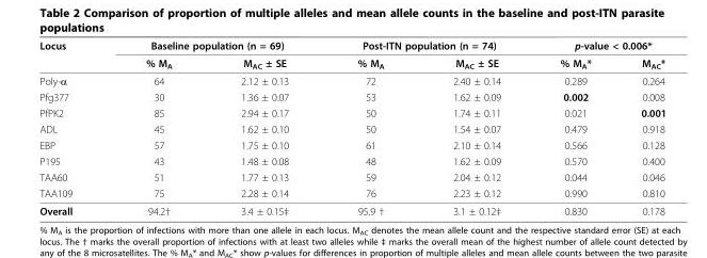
<table><thead><tr><td rowspan="2">Locus</td><td colspan="2">Baseline population (n = 69)</td><td colspan="2">Post-ITN population (n = 74)</td><td colspan="2">p-value &lt; 0.006*</td></tr><tr><td>% M<sub>A</sub></td><td>M<sub>AC</sub> ± SE</td><td>% M<sub>A</sub></td><td>M<sub>AC</sub> ± SE</td><td>% M<sub>A</sub>*</td><td>M<sub>AC</sub>*</td></tr></thead><tbody><tr><td>Poly-α</td><td>64</td><td>2.12 ± 0.13</td><td>72</td><td>2.40 ± 0.14</td><td>0.289</td><td>0.264</td></tr><tr><td>Pfg377</td><td>30</td><td>1.36 ± 0.07</td><td>53</td><td>1.62 ± 0.09</td><td>0.002</td><td>0.008</td></tr><tr><td>PfPK2</td><td>85</td><td>2.94 ± 0.17</td><td>50</td><td>1.74 ± 0.11</td><td>0.021</td><td>0.001</td></tr><tr><td>ADL</td><td>45</td><td>1.62 ± 0.10</td><td>50</td><td>1.54 ± 0.07</td><td>0.479</td><td>0.918</td></tr><tr><td>EBP</td><td>57</td><td>1.75 ± 0.10</td><td>61</td><td>2.10 ± 0.14</td><td>0.566</td><td>0.128</td></tr><tr><td>P195</td><td>43</td><td>1.48 ± 0.08</td><td>48</td><td>1.62 ± 0.09</td><td>0.570</td><td>0.400</td></tr><tr><td>TAA60</td><td>51</td><td>1.77 ± 0.13</td><td>59</td><td>2.04 ± 0.12</td><td>0.044</td><td>0.046</td></tr><tr><td>TAA109</td><td>75</td><td>2.28 ± 0.14</td><td>76</td><td>2.23 ± 0.12</td><td>0.990</td><td>0.810</td></tr><tr><td>Overall</td><td>94.2†</td><td>3.4 ± 0.15‡</td><td>95.9 †</td><td>3.1 ± 0.12‡</td><td>0.830</td><td>0.178</td></tr></tbody></table>